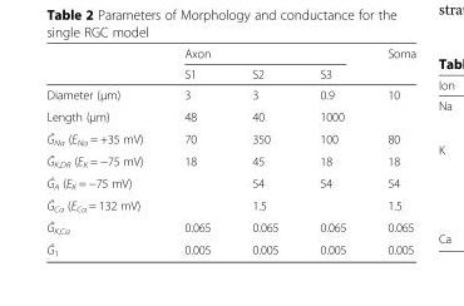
<table><thead><tr><td rowspan="2"></td><td colspan="3">Axon</td><td rowspan="2">Soma</td></tr><tr><td>S1</td><td>S2</td><td>S3</td></tr></thead><tbody><tr><td>Diameter (μm)</td><td>3</td><td>3</td><td>0.9</td><td>10</td></tr><tr><td>Length (μm)</td><td>48</td><td>40</td><td>1000</td><td></td></tr><tr><td>Ĝ<sub>Na</sub> (E<sub>Na</sub> = +35 mV)</td><td>70</td><td>350</td><td>100</td><td>80</td></tr><tr><td>Ĝ<sub>K,DR</sub> (E<sub>K</sub> = −75 mV)</td><td>18</td><td>45</td><td>18</td><td>18</td></tr><tr><td>Ĝ<sub>A</sub> (E<sub>K</sub> = −75 mV)</td><td></td><td>54</td><td>54</td><td>54</td></tr><tr><td>Ĝ<sub>Ca</sub> (E<sub>Ca</sub> = 132 mV)</td><td></td><td>1.5</td><td></td><td>1.5</td></tr><tr><td>Ĝ<sub>K,Ca</sub></td><td>0.065</td><td>0.065</td><td>0.065</td><td>0.065</td></tr><tr><td>Ĝ<sub>1</sub></td><td>0.005</td><td>0.005</td><td>0.005</td><td>0.005</td></tr></tbody></table>